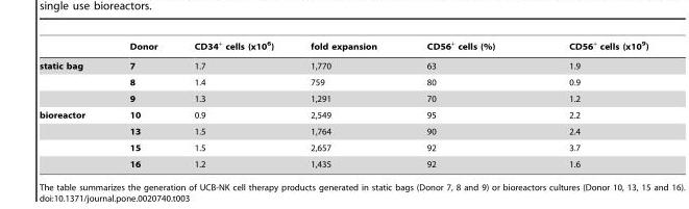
<table><thead><tr><td></td><td>Donor</td><td>CD34<sup>+</sup> cells (x10<sup>6</sup>)</td><td>fold expansion</td><td>CD56<sup>+</sup> cells (%)</td><td>CD56<sup>+</sup> cells (x10<sup>9</sup>)</td></tr></thead><tbody><tr><td rowspan="3">static bag</td><td>7</td><td>1.7</td><td>1,770</td><td>63</td><td>1.9</td></tr><tr><td>8</td><td>1.4</td><td>759</td><td>80</td><td>0.9</td></tr><tr><td>9</td><td>1.3</td><td>1,291</td><td>70</td><td>1.2</td></tr><tr><td rowspan="4">bioreactor</td><td>10</td><td>0.9</td><td>2,549</td><td>95</td><td>2.2</td></tr><tr><td>13</td><td>1.5</td><td>1,764</td><td>90</td><td>2.4</td></tr><tr><td>15</td><td>1.5</td><td>2,657</td><td>92</td><td>3.7</td></tr><tr><td>16</td><td>1.2</td><td>1,435</td><td>92</td><td>1.6</td></tr></tbody></table>